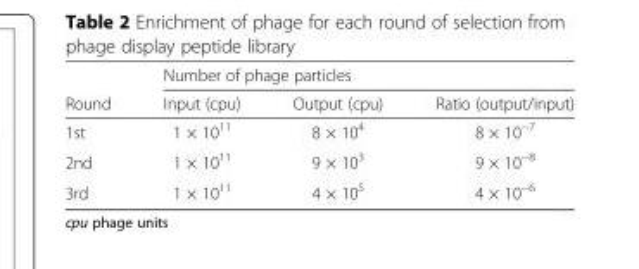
<table><thead><tr><td rowspan="2">Round</td><td colspan="3">Number of phage particles</td></tr><tr><td>Input (cpu)</td><td>Output (cpu)</td><td>Ratio (output/input)</td></tr></thead><tbody><tr><td>1st</td><td>1 × 10<sup>11</sup></td><td>8 × 10<sup>4</sup></td><td>8 × 10<sup>−7</sup></td></tr><tr><td>2nd</td><td>1 × 10<sup>11</sup></td><td>9 × 10<sup>3</sup></td><td>9 × 10<sup>−8</sup></td></tr><tr><td>3rd</td><td>1 × 10<sup>11</sup></td><td>4 × 10<sup>5</sup></td><td>4 × 10<sup>−6</sup></td></tr></tbody></table>